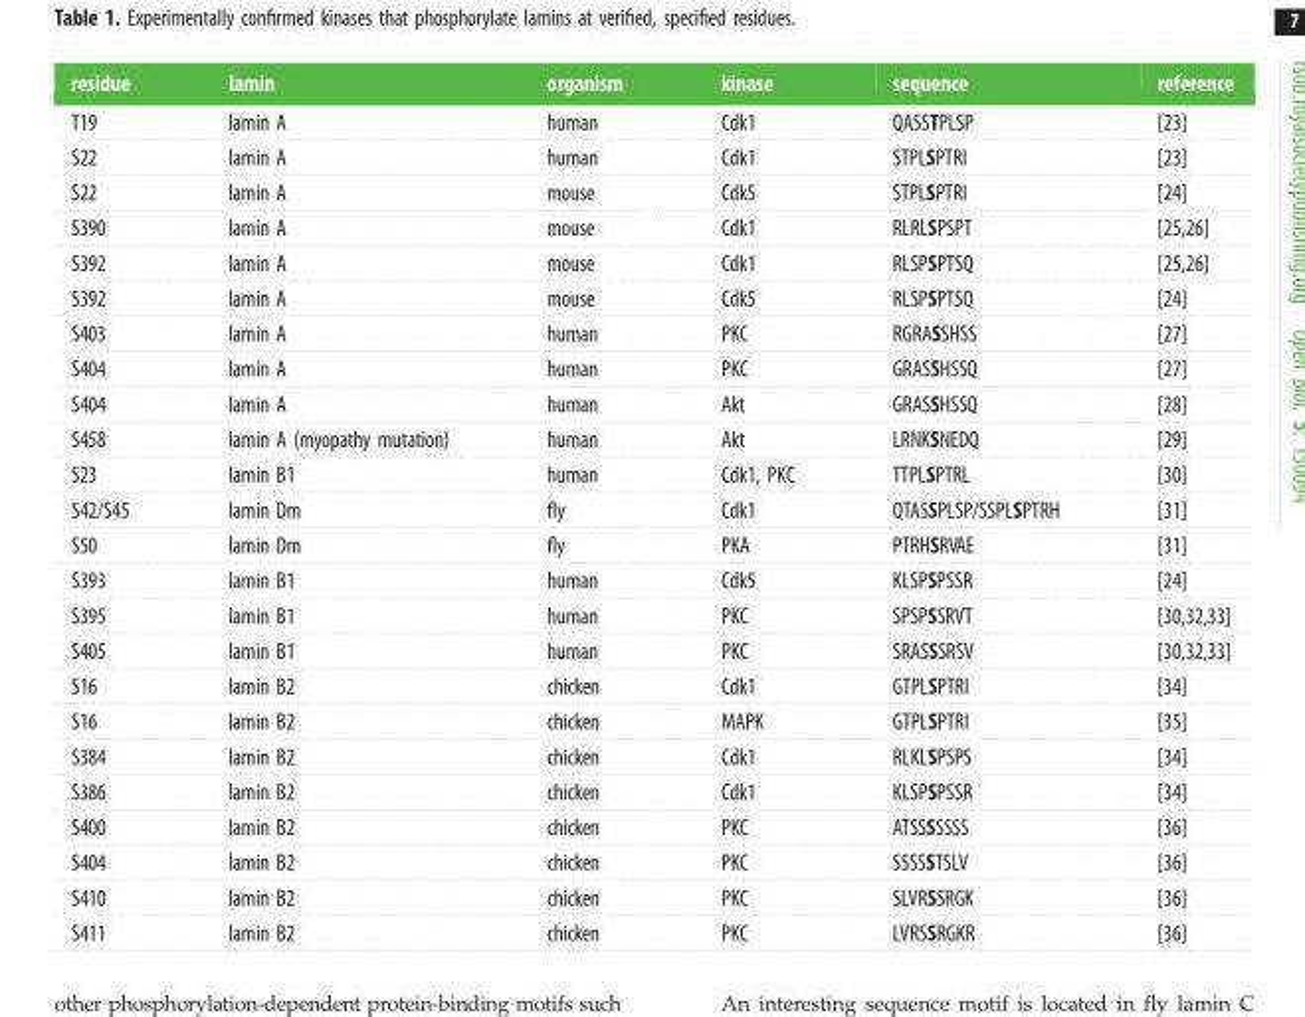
<table><thead><tr><td>residue</td><td>lamin</td><td>organism</td><td>kinase</td><td>sequence</td><td>reference</td></tr></thead><tbody><tr><td>T19</td><td>lamin A</td><td>human</td><td>Cdk1</td><td>QASSTPLSP</td><td>[23]</td></tr><tr><td>S22</td><td>lamin A</td><td>human</td><td>Cdk1</td><td>STPLSPTRI</td><td>[23]</td></tr><tr><td>S22</td><td>lamin A</td><td>mouse</td><td>Cdk5</td><td>STPLSPTRI</td><td>[24]</td></tr><tr><td>S390</td><td>lamin A</td><td>mouse</td><td>Cdk1</td><td>RLRLSPSPT</td><td>[25,26]</td></tr><tr><td>S392</td><td>lamin A</td><td>mouse</td><td>Cdk1</td><td>RLSPSPTSQ</td><td>[25,26]</td></tr><tr><td>S392</td><td>lamin A</td><td>mouse</td><td>Cdk5</td><td>RLSPSPTSQ</td><td>[24]</td></tr><tr><td>S403</td><td>lamin A</td><td>human</td><td>PKC</td><td>RGRASSHSS</td><td>[27]</td></tr><tr><td>S404</td><td>lamin A</td><td>human</td><td>PKC</td><td>GRASSHSSQ</td><td>[27]</td></tr><tr><td>S404</td><td>lamin A</td><td>human</td><td>Akt</td><td>GRASSHSSQ</td><td>[28]</td></tr><tr><td>S458</td><td>lamin A (myopathy mutation)</td><td>human</td><td>Akt</td><td>LRNKSNEDQ</td><td>[29]</td></tr><tr><td>S23</td><td>lamin B1</td><td>human</td><td>Cdk1, PKC</td><td>TTPLSPTRL</td><td>[30]</td></tr><tr><td>S42/S45</td><td>lamin Dm</td><td>fly</td><td>Cdk1</td><td>QTASSPLSP/SSPLSPTRH</td><td>[31]</td></tr><tr><td>S50</td><td>lamin Dm</td><td>fly</td><td>PKA</td><td>PTRHSRVAE</td><td>[31]</td></tr><tr><td>S393</td><td>lamin B1</td><td>human</td><td>Cdk5</td><td>KLSPSPSSR</td><td>[24]</td></tr><tr><td>S395</td><td>lamin B1</td><td>human</td><td>PKC</td><td>SPSPSSRVT</td><td>[30,32,33]</td></tr><tr><td>S405</td><td>lamin B1</td><td>human</td><td>PKC</td><td>SRASSSRSV</td><td>[30,32,33]</td></tr><tr><td>S16</td><td>lamin B2</td><td>chicken</td><td>Cdk1</td><td>GTPLSPTRI</td><td>[34]</td></tr><tr><td>S16</td><td>lamin B2</td><td>chicken</td><td>MAPK</td><td>GTPLSPTRI</td><td>[35]</td></tr><tr><td>S384</td><td>lamin B2</td><td>chicken</td><td>Cdk1</td><td>RLKLSPSPS</td><td>[34]</td></tr><tr><td>S386</td><td>lamin B2</td><td>chicken</td><td>Cdk1</td><td>KLSPSPSSR</td><td>[34]</td></tr><tr><td>S400</td><td>lamin B2</td><td>chicken</td><td>PKC</td><td>ATSSSSSSS</td><td>[36]</td></tr><tr><td>S404</td><td>lamin B2</td><td>chicken</td><td>PKC</td><td>SSSSSTSLV</td><td>[36]</td></tr><tr><td>S410</td><td>lamin B2</td><td>chicken</td><td>PKC</td><td>SLVRSSRGK</td><td>[36]</td></tr><tr><td>S411</td><td>lamin B2</td><td>chicken</td><td>PKC</td><td>LVRSSRGKR</td><td>[36]</td></tr></tbody></table>